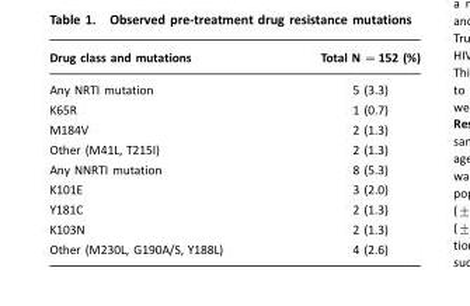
<table><thead><tr><td>Drug class and mutations</td><td>Total N =152 (%)</td></tr></thead><tbody><tr><td>Any NRTI mutation</td><td>5 (3.3)</td></tr><tr><td>K65R</td><td>1 (0.7)</td></tr><tr><td>M184V</td><td>2 (1.3)</td></tr><tr><td>Other (M41L, T215I)</td><td>2 (1.3)</td></tr><tr><td>Any NNRTI mutation</td><td>8 (5.3)</td></tr><tr><td>K101E</td><td>3 (2.0)</td></tr><tr><td>Y181C</td><td>2 (1.3)</td></tr><tr><td>K103N</td><td>2 (1.3)</td></tr><tr><td>Other (M230L, G190A/S, Y188L)</td><td>4 (2.6)</td></tr></tbody></table>